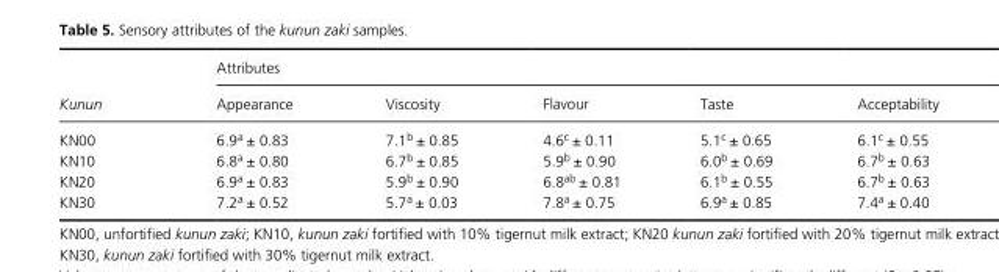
<table><thead><tr><td rowspan="2">Kunun</td><td colspan="5">Attributes</td></tr><tr><td>Appearance</td><td>Viscosity</td><td>Flavour</td><td>Taste</td><td>Acceptability</td></tr></thead><tbody><tr><td>KN00</td><td>6.9<sup>a</sup> ± 0.83</td><td>7.1<sup>b</sup> ± 0.85</td><td>4.6<sup>c</sup> ± 0.11</td><td>5.1<sup>c</sup> ± 0.65</td><td>6.1<sup>c</sup> ± 0.55</td></tr><tr><td>KN10</td><td>6.8<sup>a</sup> ± 0.80</td><td>6.7<sup>b</sup> ± 0.85</td><td>5.9<sup>b</sup> ± 0.90</td><td>6.0<sup>b</sup> ± 0.69</td><td>6.7<sup>b</sup> ± 0.63</td></tr><tr><td>KN20</td><td>6.9<sup>a</sup> ± 0.83</td><td>5.9<sup>b</sup> ± 0.90</td><td>6.8<sup>ab</sup> ± 0.81</td><td>6.1<sup>b</sup> ± 0.55</td><td>6.7<sup>b</sup> ± 0.63</td></tr><tr><td>KN30</td><td>7.2<sup>a</sup> ± 0.52</td><td>5.7<sup>a</sup> ± 0.03</td><td>7.8<sup>a</sup> ± 0.75</td><td>6.9<sup>a</sup> ± 0.85</td><td>7.4<sup>a</sup> ± 0.40</td></tr></tbody></table>